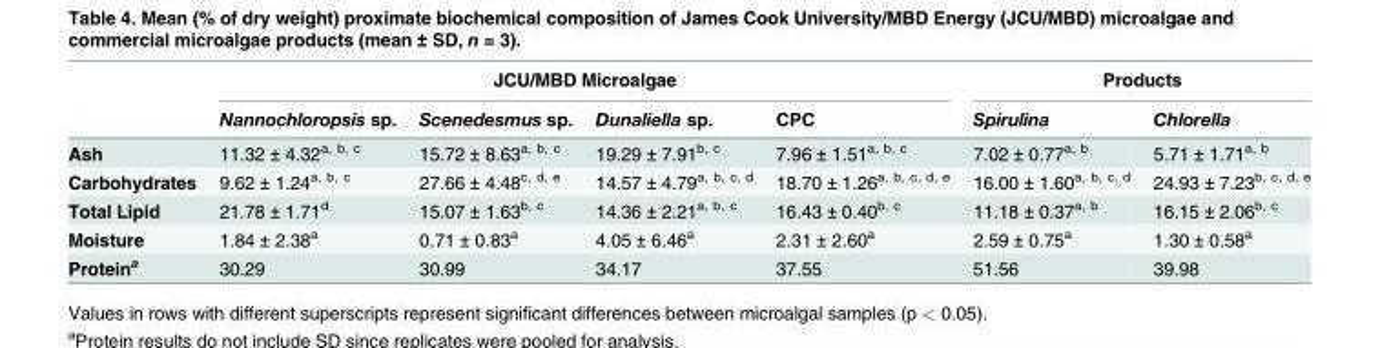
<table><thead><tr><td rowspan="2"></td><td colspan="4">JCU/MBD Microalgae</td><td colspan="2">Products</td></tr><tr><td>Nannochloropsis sp.</td><td>Scenedesmus sp.</td><td>Dunaliella sp.</td><td>CPC</td><td>Spirulina</td><td>Chlorella</td></tr></thead><tbody><tr><td>Ash</td><td>11.32 ± 4.32<sup>a, b, c</sup></td><td>15.72 ± 8.63<sup>a, b, c</sup></td><td>19.29 ± 7.91<sup>b, c</sup></td><td>7.96 ± 1.51<sup>a, b, c</sup></td><td>7.02 ± 0.77<sup>a, b</sup></td><td>5.71 ± 1.71<sup>a, b</sup></td></tr><tr><td>Carbohydrates</td><td>9.62 ± 1.24<sup>a, b, c</sup></td><td>27.66 ± 4.48<sup>c, d, e</sup></td><td>14.57 ± 4.79<sup>a, b, c, d</sup></td><td>18.70 ± 1.26<sup>a, b, c, d, e</sup></td><td>16.00 ± 1.60<sup>a, b, c, d</sup></td><td>24.93 ± 7.23<sup>b, c, d, e</sup></td></tr><tr><td>Total Lipid</td><td>21.78 ± 1.71<sup>d</sup></td><td>15.07 ± 1.63<sup>b, c</sup></td><td>14.36 ± 2.21<sup>a, b, c</sup></td><td>16.43 ± 0.40<sup>b, c</sup></td><td>11.18 ± 0.37<sup>a, b</sup></td><td>16.15 ± 2.06<sup>b, c</sup></td></tr><tr><td>Moisture</td><td>1.84 ± 2.38<sup>a</sup></td><td>0.71 ± 0.83<sup>a</sup></td><td>4.05 ± 6.46<sup>a</sup></td><td>2.31 ± 2.60<sup>a</sup></td><td>2.59 ± 0.75<sup>a</sup></td><td>1.30 ± 0.58<sup>a</sup></td></tr><tr><td>Protein<sup>a</sup></td><td>30.29</td><td>30.99</td><td>34.17</td><td>37.55</td><td>51.56</td><td>39.98</td></tr></tbody></table>